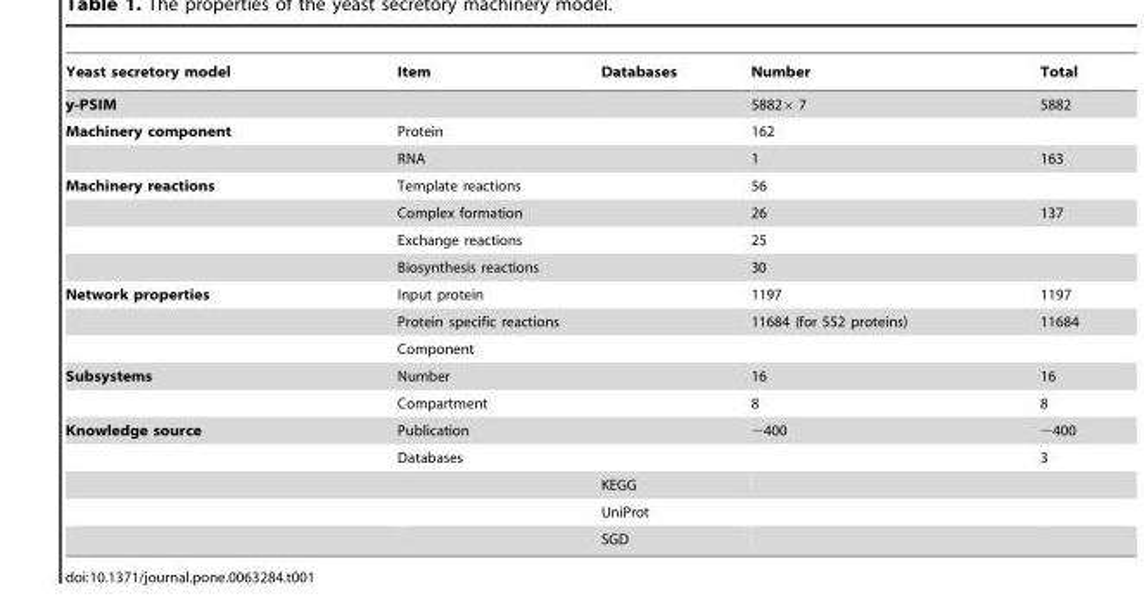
<table><thead><tr><td>Yeast secretory model</td><td>Item</td><td>Databases</td><td>Number</td><td>Total</td></tr></thead><tbody><tr><td>y-PSIM</td><td></td><td></td><td>5882× 7</td><td>5882</td></tr><tr><td rowspan="2">Machinery component</td><td>Protein</td><td></td><td>162</td><td></td></tr><tr><td>RNA</td><td></td><td>1</td><td>163</td></tr><tr><td rowspan="4">Machinery reactions</td><td colspan="2">Template reactions</td><td>56</td><td></td></tr><tr><td colspan="2">Complex formation</td><td>26</td><td>137</td></tr><tr><td colspan="2">Exchange reactions</td><td>25</td><td></td></tr><tr><td colspan="2">Biosynthesis reactions</td><td>30</td><td></td></tr><tr><td rowspan="3">Network properties</td><td colspan="2">Input protein</td><td>1197</td><td>1197</td></tr><tr><td colspan="2">Protein specific reactions</td><td>11684 (for 552 proteins)</td><td>11684</td></tr><tr><td colspan="2">Component</td><td></td><td></td></tr><tr><td rowspan="2">Subsystems</td><td>Number</td><td></td><td>16</td><td>16</td></tr><tr><td>Compartment</td><td></td><td>8</td><td>8</td></tr><tr><td rowspan="5">Knowledge source</td><td>Publication</td><td></td><td>∼400</td><td>∼400</td></tr><tr><td colspan="2">Databases</td><td></td><td>3</td></tr><tr><td></td><td>KEGG</td><td></td><td></td></tr><tr><td></td><td>UniProt</td><td></td><td></td></tr><tr><td></td><td>SGD</td><td></td><td></td></tr></tbody></table>